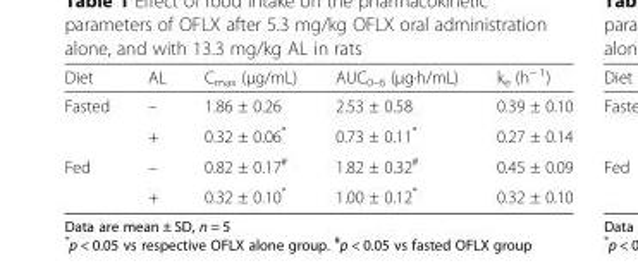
<table><thead><tr><td>Diet</td><td>AL</td><td>C<sub>max</sub> (μg/mL)</td><td>AUC<sub>0–6</sub> (μg∙h/mL)</td><td>k<sub>e</sub> (h<sup>− 1</sup>)</td></tr></thead><tbody><tr><td rowspan="2">Fasted</td><td>–</td><td>1.86 ± 0.26</td><td>2.53 ± 0.58</td><td>0.39 ± 0.10</td></tr><tr><td>+</td><td>0.32 ± 0.06*</td><td>0.73 ± 0.11*</td><td>0.27 ± 0.14</td></tr><tr><td rowspan="2">Fed</td><td>–</td><td>0.82 ± 0.17<sup>#</sup></td><td>1.82 ± 0.32<sup>#</sup></td><td>0.45 ± 0.09</td></tr><tr><td>+</td><td>0.32 ± 0.10*</td><td>1.00 ± 0.12*</td><td>0.32 ± 0.10</td></tr></tbody></table>